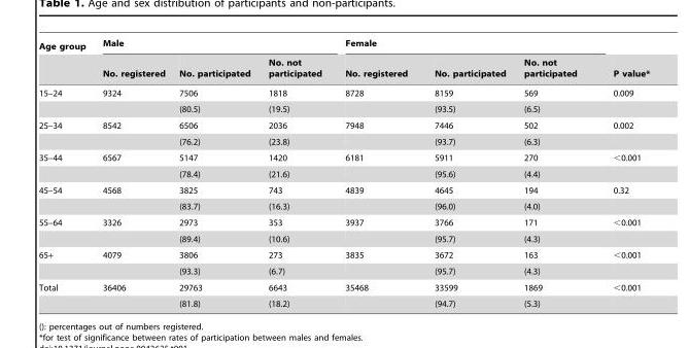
<table><thead><tr><td rowspan="2">Age group</td><td colspan="3">Male</td><td colspan="3">Female</td><td rowspan="2">P value*</td></tr><tr><td>No. registered</td><td>No. participated</td><td>No. not participated</td><td>No. registered</td><td>No. participated</td><td>No. not participated</td></tr></thead><tbody><tr><td rowspan="2">15–24</td><td>9324</td><td>7506</td><td>1818</td><td>8728</td><td>8159</td><td>569</td><td>0.009</td></tr><tr><td></td><td>(80.5)</td><td>(19.5)</td><td></td><td>(93.5)</td><td>(6.5)</td><td></td></tr><tr><td rowspan="2">25–34</td><td>8542</td><td>6506</td><td>2036</td><td>7948</td><td>7446</td><td>502</td><td>0.002</td></tr><tr><td></td><td>(76.2)</td><td>(23.8)</td><td></td><td>(93.7)</td><td>(6.3)</td><td></td></tr><tr><td rowspan="2">35–44</td><td>6567</td><td>5147</td><td>1420</td><td>6181</td><td>5911</td><td>270</td><td>&lt;0.001</td></tr><tr><td></td><td>(78.4)</td><td>(21.6)</td><td></td><td>(95.6)</td><td>(4.4)</td><td></td></tr><tr><td rowspan="2">45–54</td><td>4568</td><td>3825</td><td>743</td><td>4839</td><td>4645</td><td>194</td><td>0.32</td></tr><tr><td></td><td>(83.7)</td><td>(16.3)</td><td></td><td>(96.0)</td><td>(4.0)</td><td></td></tr><tr><td rowspan="2">55–64</td><td>3326</td><td>2973</td><td>353</td><td>3937</td><td>3766</td><td>171</td><td>&lt;0.001</td></tr><tr><td></td><td>(89.4)</td><td>(10.6)</td><td></td><td>(95.7)</td><td>(4.3)</td><td></td></tr><tr><td rowspan="2">65+</td><td>4079</td><td>3806</td><td>273</td><td>3835</td><td>3672</td><td>163</td><td>&lt;0.001</td></tr><tr><td></td><td>(93.3)</td><td>(6.7)</td><td></td><td>(95.7)</td><td>(4.3)</td><td></td></tr><tr><td rowspan="2">Total</td><td>36406</td><td>29763</td><td>6643</td><td>35468</td><td>33599</td><td>1869</td><td>&lt;0.001</td></tr><tr><td></td><td>(81.8)</td><td>(18.2)</td><td></td><td>(94.7)</td><td>(5.3)</td><td></td></tr></tbody></table>